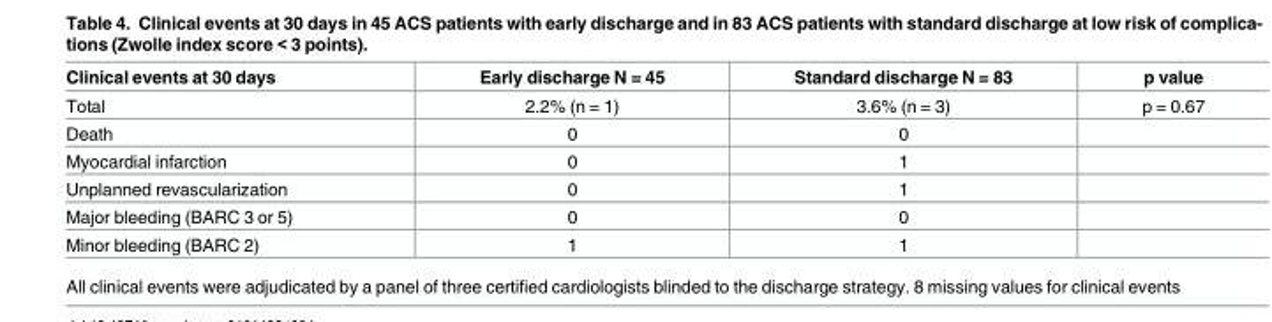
<table><thead><tr><td>Clinical events at 30 days</td><td>Early discharge N = 45</td><td>Standard discharge N = 83</td><td>p value</td></tr></thead><tbody><tr><td>Total</td><td>2.2% (n = 1)</td><td>3.6% (n = 3)</td><td>p = 0.67</td></tr><tr><td>Death</td><td>0</td><td>0</td><td></td></tr><tr><td>Myocardial infarction</td><td>0</td><td>1</td><td></td></tr><tr><td>Unplanned revascularization</td><td>0</td><td>1</td><td></td></tr><tr><td>Major bleeding (BARC 3 or 5)</td><td>0</td><td>0</td><td></td></tr><tr><td>Minor bleeding (BARC 2)</td><td>1</td><td>1</td><td></td></tr></tbody></table>